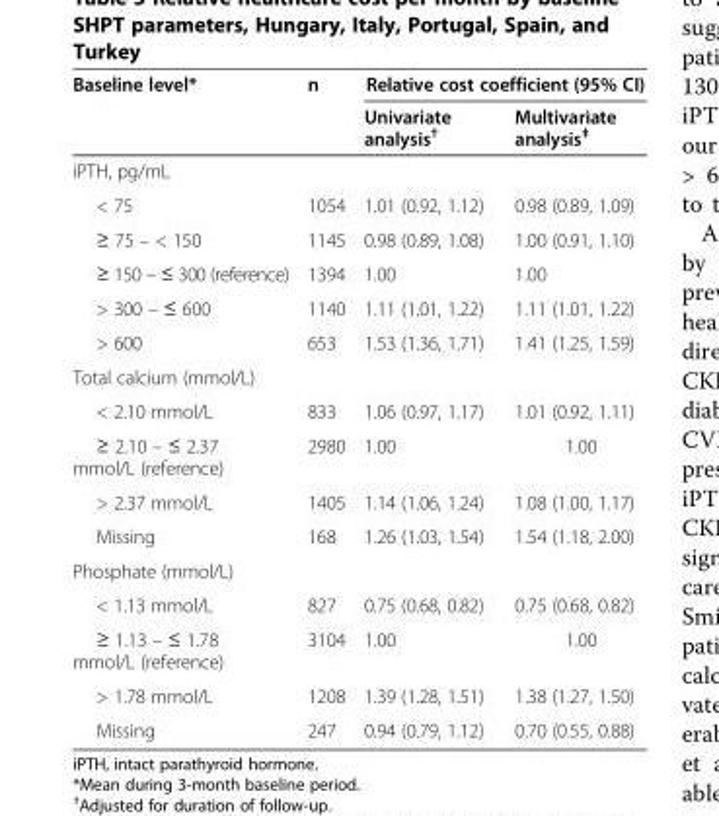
<table><thead><tr><td rowspan="2">Baseline level*</td><td rowspan="2">n</td><td colspan="2">Relative cost coefficient (95% CI)</td></tr><tr><td>Univariate analysis<sup>†</sup></td><td>Multivariate analysis<sup>‡</sup></td></tr></thead><tbody><tr><td colspan="4">iPTH, pg/mL</td></tr><tr><td>&lt; 75</td><td>1054</td><td>1.01 (0.92, 1.12)</td><td>0.98 (0.89, 1.09)</td></tr><tr><td>≥ 75 – &lt; 150</td><td>1145</td><td>0.98 (0.89, 1.08)</td><td>1.00 (0.91, 1.10)</td></tr><tr><td>≥ 150 – ≤ 300 (reference)</td><td>1394</td><td>1.00</td><td>1.00</td></tr><tr><td>&gt; 300 – ≤ 600</td><td>1140</td><td>1.11 (1.01, 1.22)</td><td>1.11 (1.01, 1.22)</td></tr><tr><td>&gt; 600</td><td>653</td><td>1.53 (1.36, 1.71)</td><td>1.41 (1.25, 1.59)</td></tr><tr><td colspan="4">Total calcium (mmol/L)</td></tr><tr><td>&lt; 2.10 mmol/L</td><td>833</td><td>1.06 (0.97, 1.17)</td><td>1.01 (0.92, 1.11)</td></tr><tr><td>≥ 2.10 – ≤ 2.37 mmol/L (reference)</td><td>2980</td><td>1.00</td><td>1.00</td></tr><tr><td>&gt; 2.37 mmol/L</td><td>1405</td><td>1.14 (1.06, 1.24)</td><td>1.08 (1.00, 1.17)</td></tr><tr><td>Missing</td><td>168</td><td>1.26 (1.03, 1.54)</td><td>1.54 (1.18, 2.00)</td></tr><tr><td colspan="4">Phosphate (mmol/L)</td></tr><tr><td>&lt; 1.13 mmol/L</td><td>827</td><td>0.75 (0.68, 0.82)</td><td>0.75 (0.68, 0.82)</td></tr><tr><td>≥ 1.13 – ≤ 1.78 mmol/L (reference)</td><td>3104</td><td>1.00</td><td>1.00</td></tr><tr><td>&gt; 1.78 mmol/L</td><td>1208</td><td>1.39 (1.28, 1.51)</td><td>1.38 (1.27, 1.50)</td></tr><tr><td>Missing</td><td>247</td><td>0.94 (0.79, 1.12)</td><td>0.70 (0.55, 0.88)</td></tr></tbody></table>